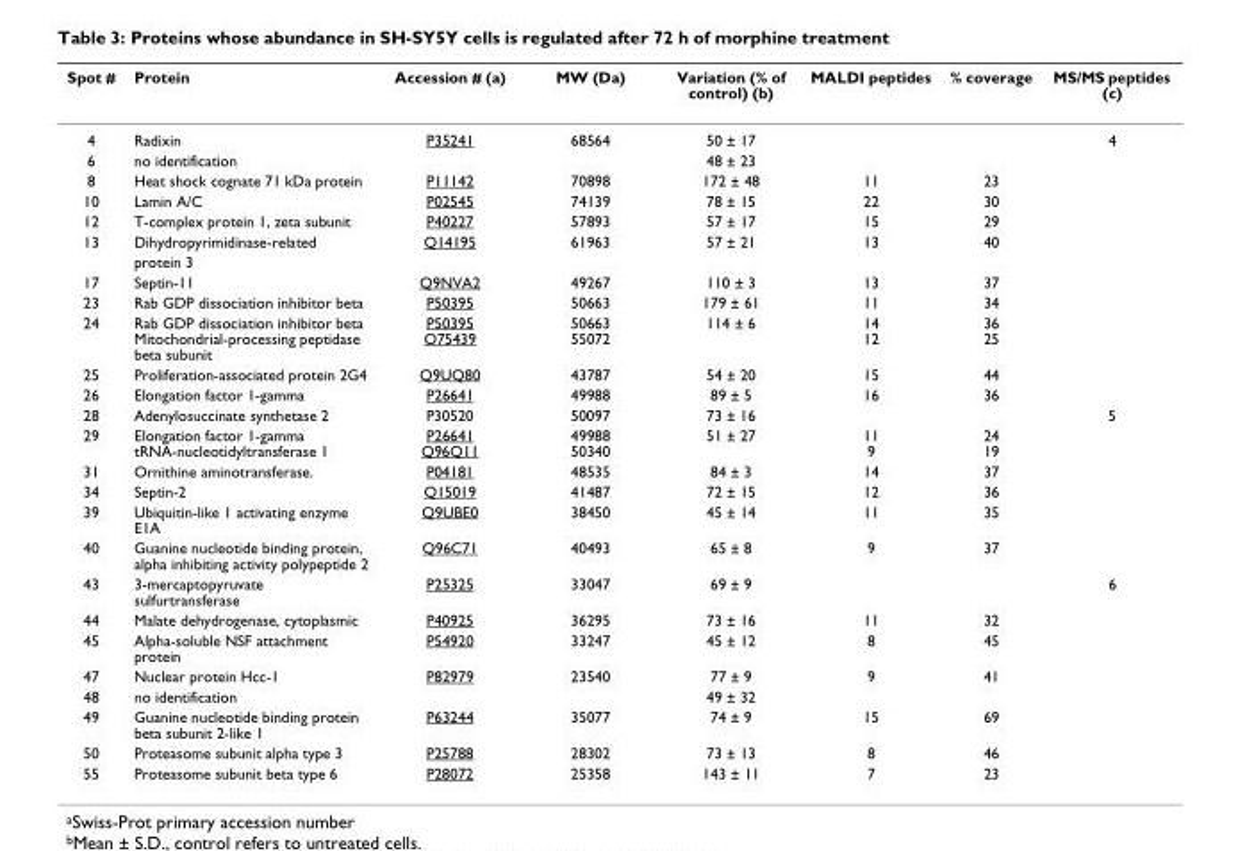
<table><thead><tr><td>Spot #</td><td>Protein</td><td>Accession # (a)</td><td>MW (Da)</td><td>Variation (% of control) (b)</td><td>MALDI peptides</td><td>% coverage</td><td>MS/MS peptides (c)</td></tr></thead><tbody><tr><td>4</td><td>Radixin</td><td>P35241</td><td>68564</td><td>50 ± 17</td><td></td><td></td><td>4</td></tr><tr><td>6</td><td>no identification</td><td></td><td></td><td>48 ± 23</td><td></td><td></td><td></td></tr><tr><td>8</td><td>Heat shock cognate 71 kDa protein</td><td>P11142</td><td>70898</td><td>172 ± 48</td><td>11</td><td>23</td><td></td></tr><tr><td>10</td><td>Lamin A/C</td><td>P02545</td><td>74139</td><td>78 ± 15</td><td>22</td><td>30</td><td></td></tr><tr><td>12</td><td>T-complex protein 1, zeta subunit</td><td>P40227</td><td>57893</td><td>57 ± 17</td><td>15</td><td>29</td><td></td></tr><tr><td rowspan="2">13</td><td>Dihydropyrimidinase-related</td><td>Q14195</td><td>61963</td><td>57 ± 21</td><td>13</td><td>40</td><td></td></tr><tr><td>protein 3</td><td></td><td></td><td></td><td></td><td></td><td></td></tr><tr><td>17</td><td>Septin-11</td><td>Q9NVA2</td><td>49267</td><td>110 ± 3</td><td>13</td><td>37</td><td></td></tr><tr><td>23</td><td>Rab GDP dissociation inhibitor beta</td><td>P50395</td><td>50663</td><td>179 ± 61</td><td>11</td><td>34</td><td></td></tr><tr><td>24</td><td>Rab GDP dissociation inhibitor beta Mitochondrial-processing peptidase beta subunit</td><td>P50395 O75439</td><td>50663 55072</td><td>114 ± 6</td><td>14 12</td><td>36 25</td><td></td></tr><tr><td>25</td><td>Proliferation-associated protein 2G4</td><td>Q9UQ80</td><td>43787</td><td>54 ± 20</td><td>15</td><td>44</td><td></td></tr><tr><td>26</td><td>Elongation factor 1-gamma</td><td>P26641</td><td>49988</td><td>89 ± 5</td><td>16</td><td>36</td><td></td></tr><tr><td>28</td><td>Adenylosuccinate synthetase 2</td><td>P30520</td><td>50097</td><td>73 ± 16</td><td></td><td></td><td>5</td></tr><tr><td>29</td><td>Elongation factor 1-gamma tRNA-nucleotidyltransferase 1</td><td>P26641 Q96Q11</td><td>49988 50340</td><td>51 ± 27</td><td>11 9</td><td>24 19</td><td></td></tr><tr><td>31</td><td>Ornithine aminotransferase.</td><td>P04181</td><td>48535</td><td>84 ± 3</td><td>14</td><td>37</td><td></td></tr><tr><td>34</td><td>Septin-2</td><td>Q15019</td><td>41487</td><td>72 ± 15</td><td>12</td><td>36</td><td></td></tr><tr><td>39</td><td>Ubiquitin-like 1 activating enzyme E1A</td><td>Q9UBE0</td><td>38450</td><td>45 ± 14</td><td>11</td><td>35</td><td></td></tr><tr><td>40</td><td>Guanine nucleotide binding protein, alpha inhibiting activity polypeptide 2</td><td>Q96C71</td><td>40493</td><td>65 ± 8</td><td>9</td><td>37</td><td></td></tr><tr><td>43</td><td>3-mercaptopyruvate sulfurtransferase</td><td>P25325</td><td>33047</td><td>69 ± 9</td><td></td><td></td><td>6</td></tr><tr><td>44</td><td>Malate dehydrogenase, cytoplasmic</td><td>P40925</td><td>36295</td><td>73 ± 16</td><td>11</td><td>32</td><td></td></tr><tr><td>45</td><td>Alpha-soluble NSF attachment protein</td><td>P54920</td><td>33247</td><td>45 ± 12</td><td>8</td><td>45</td><td></td></tr><tr><td>47</td><td>Nuclear protein Hcc-1</td><td>P82979</td><td>23540</td><td>77 ± 9</td><td>9</td><td>41</td><td></td></tr><tr><td>48</td><td>no identification</td><td></td><td></td><td>49 ± 32</td><td></td><td></td><td></td></tr><tr><td>49</td><td>Guanine nucleotide binding protein beta subunit 2-like 1</td><td>P63244</td><td>35077</td><td>74 ± 9</td><td>15</td><td>69</td><td></td></tr><tr><td>50</td><td>Proteasome subunit alpha type 3</td><td>P25788</td><td>28302</td><td>73 ± 13</td><td>8</td><td>46</td><td></td></tr><tr><td>55</td><td>Proteasome subunit beta type 6</td><td>P28072</td><td>25358</td><td>143 ± 11</td><td>7</td><td>23</td><td></td></tr></tbody></table>